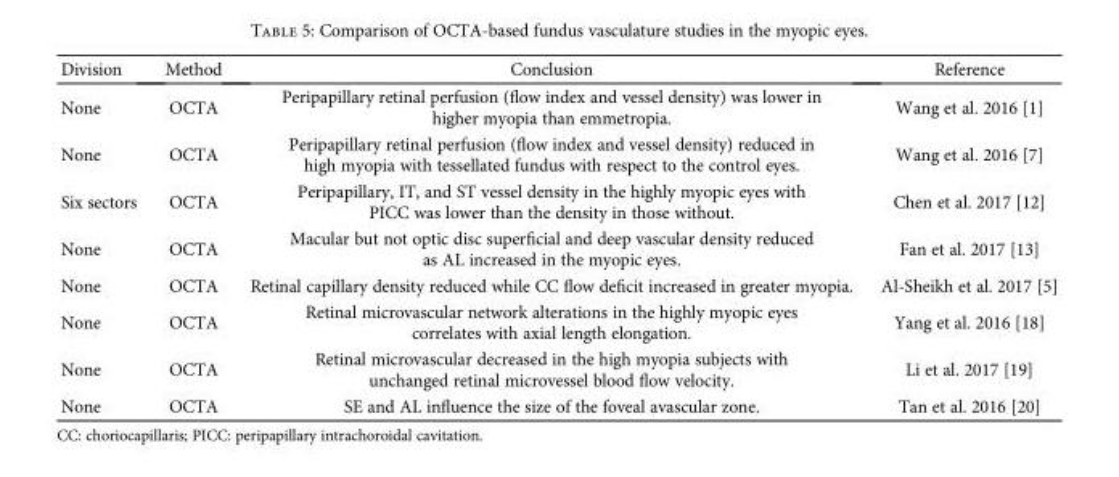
<table><thead><tr><td>Division</td><td>Method</td><td>Conclusion</td><td>Reference</td></tr></thead><tbody><tr><td>None</td><td>OCTA</td><td>Peripapillary retinal perfusion (flow index and vessel density) was lower in higher myopia than emmetropia.</td><td>Wang et al. 2016 [1]</td></tr><tr><td>None</td><td>OCTA</td><td>Peripapillary retinal perfusion (flow index and vessel density) reduced in high myopia with tessellated fundus with respect to the control eyes.</td><td>Wang et al. 2016 [7]</td></tr><tr><td>Six sectors</td><td>OCTA</td><td>Peripapillary, IT, and ST vessel density in the highly myopic eyes with PICC was lower than the density in those without.</td><td>Chen et al. 2017 [12]</td></tr><tr><td>None</td><td>OCTA</td><td>Macular but not optic disc superficial and deep vascular density reduced as AL increased in the myopic eyes.</td><td>Fan et al. 2017 [13]</td></tr><tr><td>None</td><td>OCTA</td><td>Retinal capillary density reduced while CC flow deficit increased in greater myopia.</td><td>Al-Sheikh et al. 2017 [5]</td></tr><tr><td>None</td><td>OCTA</td><td>Retinal microvascular network alterations in the highly myopic eyes correlates with axial length elongation.</td><td>Yang et al. 2016 [18]</td></tr><tr><td>None</td><td>OCTA</td><td>Retinal microvascular decreased in the high myopia subjects with unchanged retinal microvessel blood flow velocity.</td><td>Li et al. 2017 [19]</td></tr><tr><td>None</td><td>OCTA</td><td>SE and AL influence the size of the foveal avascular zone.</td><td>Tan et al. 2016 [20]</td></tr></tbody></table>